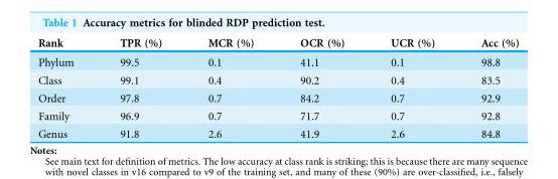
<table><thead><tr><td>Rank</td><td>TPR (%)</td><td>MCR (%)</td><td>OCR (%)</td><td>UCR (%)</td><td>Acc (%)</td></tr></thead><tbody><tr><td>Phylum</td><td>99.5</td><td>0.1</td><td>41.1</td><td>0.1</td><td>98.8</td></tr><tr><td>Class</td><td>99.1</td><td>0.4</td><td>90.2</td><td>0.4</td><td>83.5</td></tr><tr><td>Order</td><td>97.8</td><td>0.7</td><td>84.2</td><td>0.7</td><td>92.9</td></tr><tr><td>Family</td><td>96.9</td><td>0.7</td><td>71.7</td><td>0.7</td><td>92.8</td></tr><tr><td>Genus</td><td>91.8</td><td>2.6</td><td>41.9</td><td>2.6</td><td>84.8</td></tr></tbody></table>